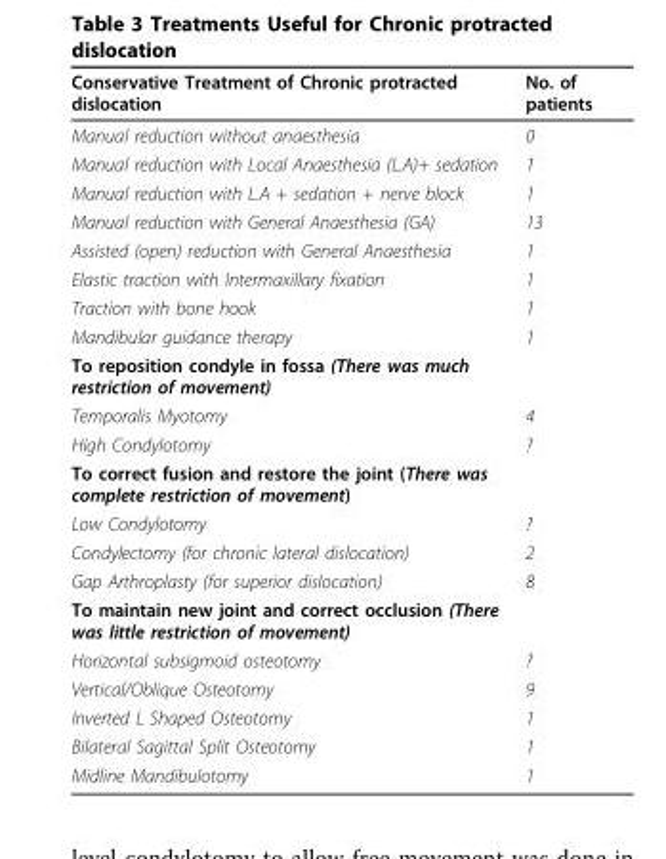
<table><thead><tr><td>Conservative Treatment of Chronic protracted dislocation</td><td>No. of patients</td></tr></thead><tbody><tr><td>Manual reduction without anaesthesia</td><td>0</td></tr><tr><td>Manual reduction with Local Anaesthesia (L.A)+ sedation</td><td>1</td></tr><tr><td>Manual reduction with L.A + sedation + nerve block</td><td>1</td></tr><tr><td>Manual reduction with General Anaesthesia (GA)</td><td>13</td></tr><tr><td>Assisted (open) reduction with General Anaesthesia</td><td>1</td></tr><tr><td>Elastic traction with Intermaxillary fixation</td><td>1</td></tr><tr><td>Traction with bone hook</td><td>1</td></tr><tr><td>Mandibular guidance therapy</td><td>1</td></tr><tr><td colspan="2">To reposition condyle in fossa (There was much restriction of movement)</td></tr><tr><td>Temporalis Myotomy</td><td>4</td></tr><tr><td>High Condylotomy</td><td>?</td></tr><tr><td colspan="2">To correct fusion and restore the joint (There was complete restriction of movement)</td></tr><tr><td>Low Condylotomy</td><td>?</td></tr><tr><td>Condylectomy (for chronic lateral dislocation)</td><td>2</td></tr><tr><td>Gap Arthroplasty (for superior dislocation)</td><td>8</td></tr><tr><td colspan="2">To maintain new joint and correct occlusion (There was little restriction of movement)</td></tr><tr><td>Horizontal subsigmoid osteotomy</td><td>?</td></tr><tr><td>Vertical/Oblique Osteotomy</td><td>9</td></tr><tr><td>Inverted L Shaped Osteotomy</td><td>1</td></tr><tr><td>Bilateral Sagittal Split Osteotomy</td><td>1</td></tr><tr><td>Midline Mandibulotomy</td><td>1</td></tr></tbody></table>